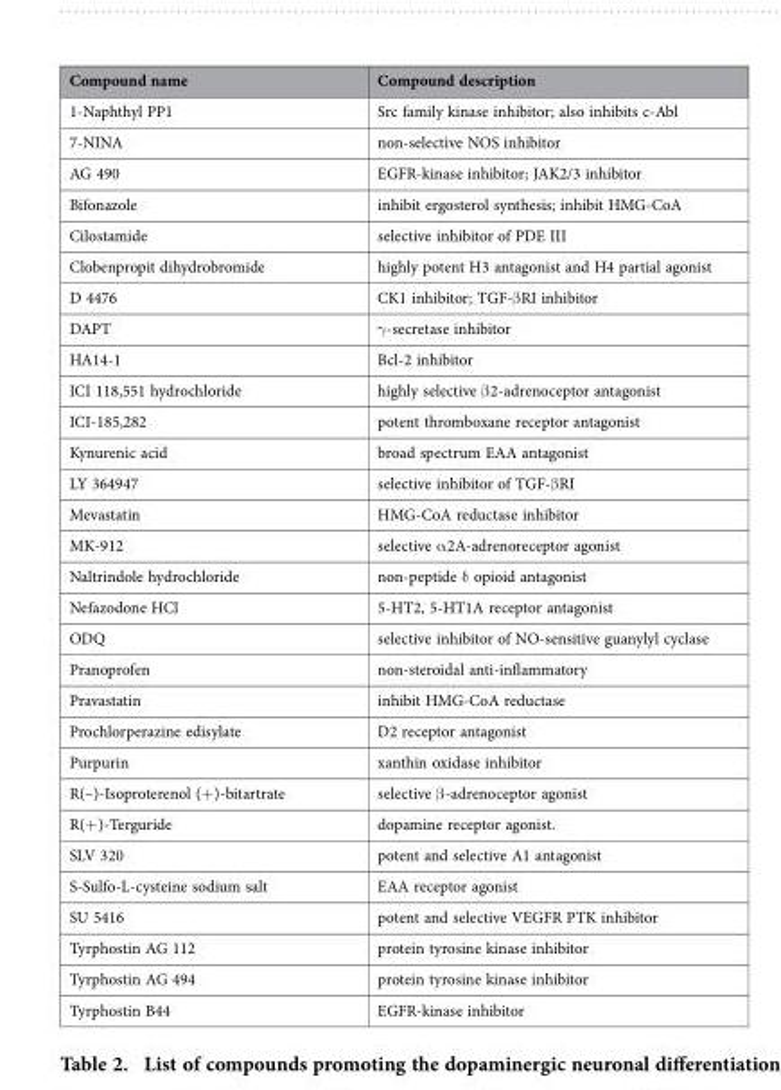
<table><thead><tr><td>Compound name</td><td>Compound description</td></tr></thead><tbody><tr><td>1-Naphthyl PP1</td><td>Src family kinase inhibitor; also inhibits c-Abl</td></tr><tr><td>7-NINA</td><td>non-selective NOS inhibitor</td></tr><tr><td>AG 490</td><td>EGFR-kinase inhibitor; JAK2/3 inhibitor</td></tr><tr><td>Bifonazole</td><td>inhibit ergosterol synthesis; inhibit HMG-CoA</td></tr><tr><td>Cilostamide</td><td>selective inhibitor of PDE III</td></tr><tr><td>Clobenpropit dihydrobromide</td><td>highly potent H3 antagonist and H4 partial agonist</td></tr><tr><td>D 4476</td><td>CK1 inhibitor; TGF-β RI inhibitor</td></tr><tr><td>DAPT</td><td>γ -secretase inhibitor</td></tr><tr><td>HA14-1</td><td>Bcl-2 inhibitor</td></tr><tr><td>ICI 118,551 hydrochloride</td><td>highly selective β 2-adrenoceptor antagonist</td></tr><tr><td>ICI-185,282</td><td>potent thromboxane receptor antagonist</td></tr><tr><td>Kynurenic acid</td><td>broad spectrum EAA antagonist</td></tr><tr><td>LY 364947</td><td>selective inhibitor of TGF-β RI</td></tr><tr><td>Mevastatin</td><td>HMG-CoA reductase inhibitor</td></tr><tr><td>MK-912</td><td>selective α 2A-adrenoreceptor agonist</td></tr><tr><td>Naltrindole hydrochloride</td><td>non-peptide δ opioid antagonist</td></tr><tr><td>Nefazodone HCl</td><td>5-HT2, 5-HT1A receptor antagonist</td></tr><tr><td>ODQ</td><td>selective inhibitor of NO-sensitive guanylyl cyclase</td></tr><tr><td>Pranoprofen</td><td>non-steroidal anti-inflammatory</td></tr><tr><td>Pravastatin</td><td>inhibit HMG-CoA reductase</td></tr><tr><td>Prochlorperazine edisylate</td><td>D2 receptor antagonist</td></tr><tr><td>Purpurin</td><td>xanthin oxidase inhibitor</td></tr><tr><td>R(–)-Isoproterenol (+ )-bitartrate</td><td>selective β -adrenoceptor agonist</td></tr><tr><td>R(+ )-Terguride</td><td>dopamine receptor agonist.</td></tr><tr><td>SLV 320</td><td>potent and selective A1 antagonist</td></tr><tr><td>S-Sulfo-L-cysteine sodium salt</td><td>EAA receptor agonist</td></tr><tr><td>SU 5416</td><td>potent and selective VEGFR PTK inhibitor</td></tr><tr><td>Tyrphostin AG 112</td><td>protein tyrosine kinase inhibitor</td></tr><tr><td>Tyrphostin AG 494</td><td>protein tyrosine kinase inhibitor</td></tr><tr><td>Tyrphostin B44</td><td>EGFR-kinase inhibitor</td></tr></tbody></table>